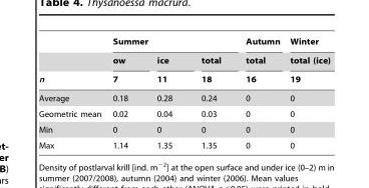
<table><thead><tr><td rowspan="3">n</td><td colspan="3">Summer</td><td rowspan="3">Autumn total 16</td><td rowspan="3">Winter total (ice) 19</td></tr><tr><td rowspan="2">ow 7</td><td rowspan="2">ice 11</td><td rowspan="2">total 18</td></tr><tr></tr></thead><tbody><tr><td>Average</td><td>0.18</td><td>0.28</td><td>0.24</td><td>0</td><td>0</td></tr><tr><td>Geometric mean</td><td>0.02</td><td>0.04</td><td>0.03</td><td>0</td><td>0</td></tr><tr><td>Min</td><td>0</td><td>0</td><td>0</td><td>0</td><td>0</td></tr><tr><td>Max</td><td>1.14</td><td>1.35</td><td>1.35</td><td>0</td><td>0</td></tr></tbody></table>